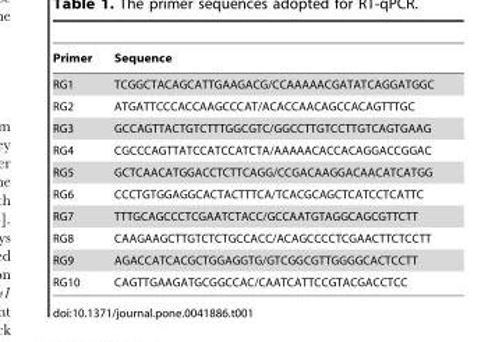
<table><thead><tr><td>Primer</td><td>Sequence</td></tr></thead><tbody><tr><td>RG1</td><td>TCGGCTACAGCATTGAAGACG/CCAAAAACGATATCAGGATGGC</td></tr><tr><td>RG2</td><td>ATGATTCCCACCAAGCCCAT/ACACCAACAGCCACAGTTTGC</td></tr><tr><td>RG3</td><td>GCCAGTTACTGTCTTTGGCGTC/GGCCTTGTCCTTGTCAGTGAAG</td></tr><tr><td>RG4</td><td>CGCCCAGTTATCCATCCATCTA/AAAAACACCACAGGACCGGAC</td></tr><tr><td>RG5</td><td>GCTCAACATGGACCTCTTCAGG/CCGACAAGGACAACATCATGG</td></tr><tr><td>RG6</td><td>CCCTGTGGAGGCACTACTTTCA/TCACGCAGCTCATCCTCATTC</td></tr><tr><td>RG7</td><td>TTTGCAGCCCTCGAATCTACC/GCCAATGTAGGCAGCGTTCTT</td></tr><tr><td>RG8</td><td>CAAGAAGCTTGTCTCTGCCACC/ACAGCCCCTCGAACTTCTCCTT</td></tr><tr><td>RG9</td><td>AGACCATCACGCTGGAGGTG/GTCGGCGTTGGGGCACTCCTT</td></tr><tr><td>RG10</td><td>CAGTTGAAGATGCGGCCAC/CAATCATTCCGTACGACCTCC</td></tr></tbody></table>